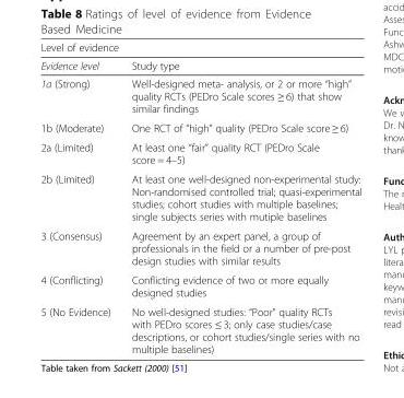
<table><thead><tr><td colspan="2">Level of evidence</td></tr><tr><td>Evidence level</td><td>Study type</td></tr></thead><tbody><tr><td>1a (Strong)</td><td>Well-designed meta- analysis, or 2 or more “high” quality RCTs (PEDro Scale scores ≥ 6) that show similar findings</td></tr><tr><td>1b (Moderate)</td><td>One RCT of “high” quality (PEDro Scale score ≥ 6)</td></tr><tr><td>2a (Limited)</td><td>At least one “fair” quality RCT (PEDro Scale score = 4–5)</td></tr><tr><td>2b (Limited)</td><td>At least one well-designed non-experimental study: Non-randomised controlled trial; quasi-experimental studies; cohort studies with multiple baselines; single subjects series with mutiple baselines</td></tr><tr><td>3 (Consensus)</td><td>Agreement by an expert panel, a group of professionals in the field or a number of pre-post design studies with similar results</td></tr><tr><td>4 (Conflicting)</td><td>Conflicting evidence of two or more equally designed studies</td></tr><tr><td>5 (No Evidence)</td><td>No well-designed studies: “Poor” quality RCTs with PEDro scores ≤ 3; only case studies/case descriptions, or cohort studies/single series with no multiple baselines)</td></tr></tbody></table>